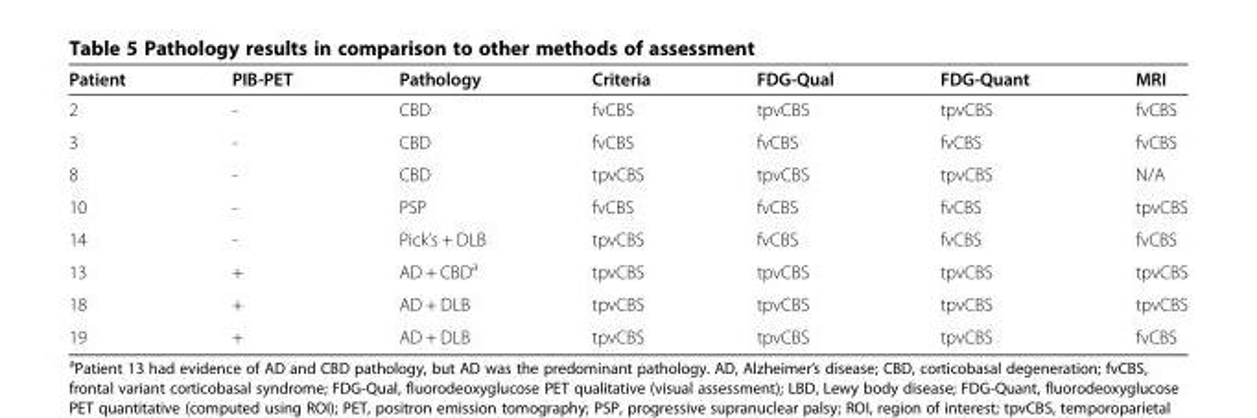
<table><thead><tr><td>Patient</td><td>PIB-PET</td><td>Pathology</td><td>Criteria</td><td>FDG-Qual</td><td>FDG-Quant</td><td>MRI</td></tr></thead><tbody><tr><td>2</td><td>-</td><td>CBD</td><td>fvCBS</td><td>tpvCBS</td><td>tpvCBS</td><td>fvCBS</td></tr><tr><td>3</td><td>-</td><td>CBD</td><td>fvCBS</td><td>fvCBS</td><td>fvCBS</td><td>fvCBS</td></tr><tr><td>8</td><td>-</td><td>CBD</td><td>tpvCBS</td><td>tpvCBS</td><td>tpvCBS</td><td>N/A</td></tr><tr><td>10</td><td>-</td><td>PSP</td><td>fvCBS</td><td>fvCBS</td><td>fvCBS</td><td>tpvCBS</td></tr><tr><td>14</td><td>-</td><td>Pick’s + DLB</td><td>tpvCBS</td><td>fvCBS</td><td>fvCBS</td><td>fvCBS</td></tr><tr><td>13</td><td>+</td><td>AD + CBD<sup>a</sup></td><td>tpvCBS</td><td>tpvCBS</td><td>tpvCBS</td><td>tpvCBS</td></tr><tr><td>18</td><td>+</td><td>AD + DLB</td><td>tpvCBS</td><td>tpvCBS</td><td>tpvCBS</td><td>tpvCBS</td></tr><tr><td>19</td><td>+</td><td>AD + DLB</td><td>tpvCBS</td><td>tpvCBS</td><td>tpvCBS</td><td>fvCBS</td></tr></tbody></table>